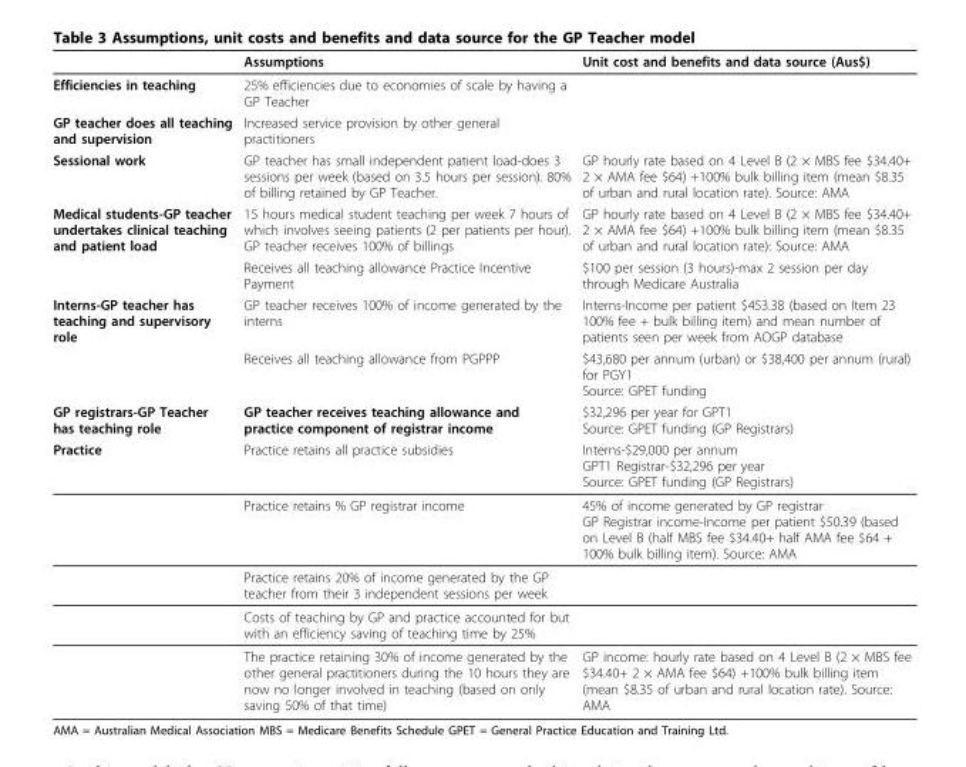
<table><thead><tr><td></td><td>Assumptions</td><td>Unit cost and benefits and data source (Aus$)</td></tr></thead><tbody><tr><td>Efficiencies in teaching</td><td>25% efficiencies due to economies of scale by having a GP Teacher</td><td></td></tr><tr><td>GP teacher does all teaching and supervision</td><td>Increased service provision by other general practitioners</td><td></td></tr><tr><td>Sessional work</td><td>GP teacher has small independent patient load-does 3 sessions per week (based on 3.5 hours per session). 80% of billing retained by GP Teacher.</td><td>GP hourly rate based on 4 Level B (2 × MBS fee $34.40+ 2 × AMA fee $64) +100% bulk billing item (mean $8.35 of urban and rural location rate). Source: AMA</td></tr><tr><td rowspan="2">Medical students-GP teacher undertakes clinical teaching and patient load</td><td>15 hours medical student teaching per week 7 hours of which involves seeing patients (2 per patients per hour). GP teacher receives 100% of billings</td><td>GP hourly rate based on 4 Level B (2 × MBS fee $34.40+ 2 × AMA fee $64) +100% bulk billing item (mean $8.35 of urban and rural location rate): Source: AMA</td></tr><tr><td>Receives all teaching allowance Practice Incentive Payment</td><td>$100 per session (3 hours)-max 2 session per day through Medicare Australia</td></tr><tr><td rowspan="2">Interns-GP teacher has teaching and supervisory role</td><td>GP teacher receives 100% of income generated by the interns</td><td>Interns-Income per patient $453.38 (based on Item 23 100% fee + bulk billing item) and mean number of patients seen per week from AOGP database</td></tr><tr><td>Receives all teaching allowance from PGPPP</td><td>$43,680 per annum (urban) or $38,400 per annum (rural) for PGY1 Source: GPET funding</td></tr><tr><td>GP registrars-GP Teacher has teaching role</td><td>GP teacher receives teaching allowance and practice component of registrar income</td><td>$32,296 per year for GPT1 Source: GPET funding (GP Registrars)</td></tr><tr><td rowspan="5">Practice</td><td>Practice retains all practice subsidies</td><td>Interns-$29,000 per annum GPT1 Registrar-$32,296 per year Source: GPET funding (GP Registrars)</td></tr><tr><td>Practice retains % GP registrar income</td><td>45% of income generated by GP registrar GP Registrar income-Income per patient $50.39 (based on Level B (half MBS fee $34.40+ half AMA fee $64 + 100% bulk billing item). Source: AMA</td></tr><tr><td>Practice retains 20% of income generated by the GP teacher from their 3 independent sessions per week</td><td></td></tr><tr><td>Costs of teaching by GP and practice accounted for but with an efficiency saving of teaching time by 25%</td><td></td></tr><tr><td>The practice retaining 30% of income generated by the other general practitioners during the 10 hours they are now no longer involved in teaching (based on only saving 50% of that time)</td><td>GP income: hourly rate based on 4 Level B (2 × MBS fee $34.40+ 2 × AMA fee $64) +100% bulk billing item (mean $8.35 of urban and rural location rate). Source: AMA</td></tr></tbody></table>